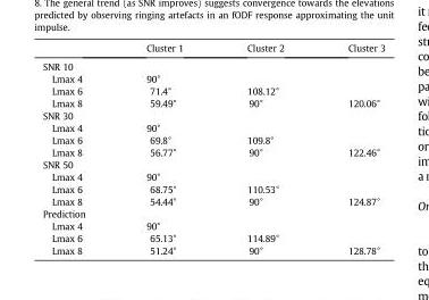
<table><thead><tr><td></td><td>Cluster 1</td><td>Cluster 2</td><td>Cluster 3</td></tr></thead><tbody><tr><td colspan="4">SNR 10</td></tr><tr><td>Lmax 4</td><td>90°</td><td></td><td></td></tr><tr><td>Lmax 6</td><td>71.4°</td><td>108.12°</td><td></td></tr><tr><td>Lmax 8</td><td>59.49°</td><td>90°</td><td>120.06°</td></tr><tr><td colspan="4">SNR 30</td></tr><tr><td>Lmax 4</td><td>90°</td><td></td><td></td></tr><tr><td>Lmax 6</td><td>69.8°</td><td>109.8°</td><td></td></tr><tr><td>Lmax 8</td><td>56.77°</td><td>90°</td><td>122.46°</td></tr><tr><td colspan="4">SNR 50</td></tr><tr><td>Lmax 4</td><td>90°</td><td></td><td></td></tr><tr><td>Lmax 6</td><td>68.75°</td><td>110.53°</td><td></td></tr><tr><td>Lmax 8</td><td>54.44°</td><td>90°</td><td>124.87°</td></tr><tr><td colspan="4">Prediction</td></tr><tr><td>Lmax 4</td><td>90°</td><td></td><td></td></tr><tr><td>Lmax 6</td><td>65.13°</td><td>114.89°</td><td></td></tr><tr><td>Lmax 8</td><td>51.24°</td><td>90°</td><td>128.78°</td></tr></tbody></table>